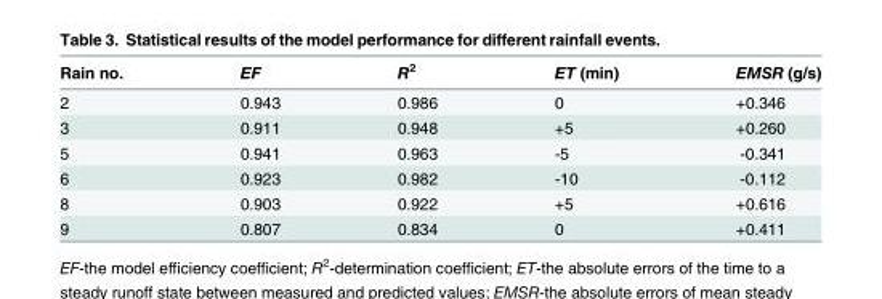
<table><thead><tr><td>Rain no.</td><td>EF</td><td>R<sup>2</sup></td><td>ET (min)</td><td>EMSR (g/s)</td></tr></thead><tbody><tr><td>2</td><td>0.943</td><td>0.986</td><td>0</td><td>+0.346</td></tr><tr><td>3</td><td>0.911</td><td>0.948</td><td>+5</td><td>+0.260</td></tr><tr><td>5</td><td>0.941</td><td>0.963</td><td>-5</td><td>-0.341</td></tr><tr><td>6</td><td>0.923</td><td>0.982</td><td>-10</td><td>-0.112</td></tr><tr><td>8</td><td>0.903</td><td>0.922</td><td>+5</td><td>+0.616</td></tr><tr><td>9</td><td>0.807</td><td>0.834</td><td>0</td><td>+0.411</td></tr></tbody></table>